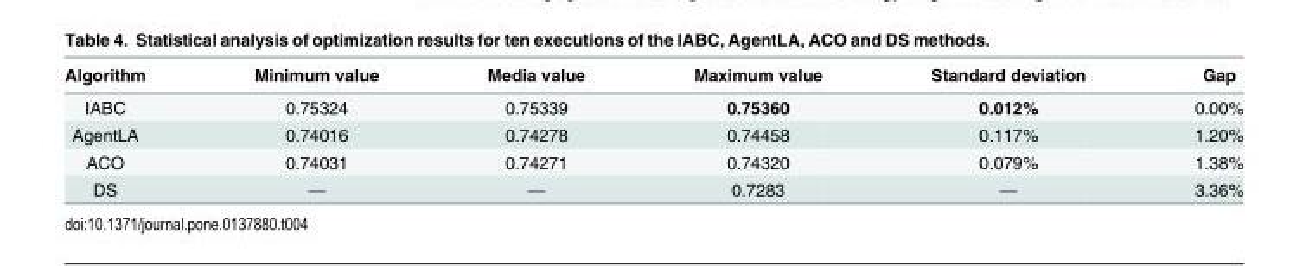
<table><thead><tr><td>Algorithm</td><td>Minimum value</td><td>Media value</td><td>Maximum value</td><td>Standard deviation</td><td>Gap</td></tr></thead><tbody><tr><td>IABC</td><td>0.75324</td><td>0.75339</td><td>0.75360</td><td>0.012%</td><td>0.00%</td></tr><tr><td>AgentLA</td><td>0.74016</td><td>0.74278</td><td>0.74458</td><td>0.117%</td><td>1.20%</td></tr><tr><td>ACO</td><td>0.74031</td><td>0.74271</td><td>0.74320</td><td>0.079%</td><td>1.38%</td></tr><tr><td>DS</td><td>—</td><td>—</td><td>0.7283</td><td>—</td><td>3.36%</td></tr></tbody></table>